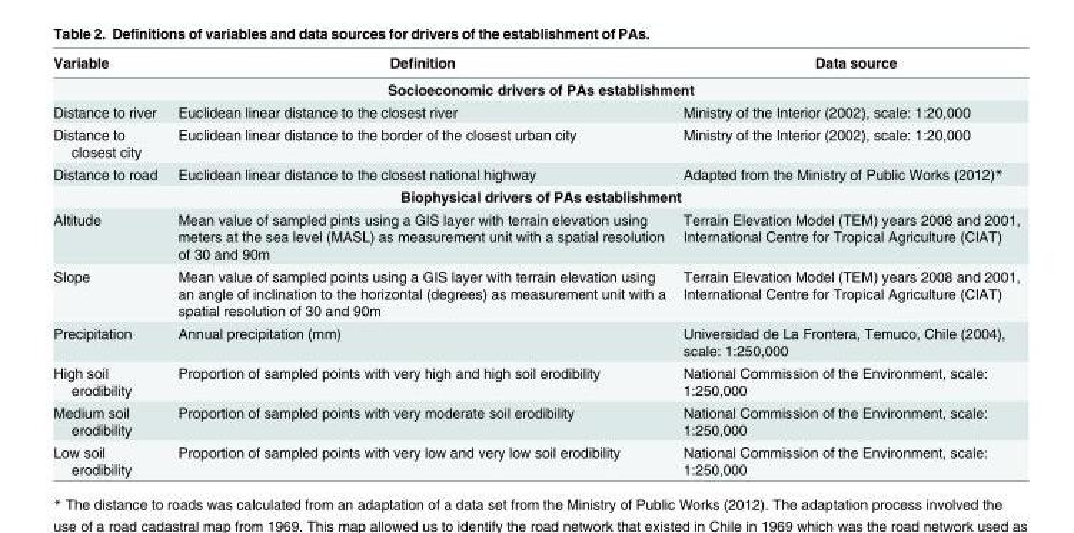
<table><thead><tr><td>Variable</td><td>Definition</td><td>Data source</td></tr></thead><tbody><tr><td colspan="3">Socioeconomic drivers of PAs establishment</td></tr><tr><td>Distance to river</td><td>Euclidean linear distance to the closest river</td><td>Ministry of the Interior (2002), scale: 1:20,000</td></tr><tr><td>Distance to closest city</td><td>Euclidean linear distance to the border of the closest urban city</td><td>Ministry of the Interior (2002), scale: 1:20,000</td></tr><tr><td>Distance to road</td><td>Euclidean linear distance to the closest national highway</td><td>Adapted from the Ministry of Public Works (2012)*</td></tr><tr><td colspan="3">Biophysical drivers of PAs establishment</td></tr><tr><td>Altitude</td><td>Mean value of sampled pints using a GIS layer with terrain elevation using meters at the sea level (MASL) as measurement unit with a spatial resolution of 30 and 90m</td><td>Terrain Elevation Model (TEM) years 2008 and 2001, International Centre for Tropical Agriculture (CIAT)</td></tr><tr><td>Slope</td><td>Mean value of sampled points using a GIS layer with terrain elevation using an angle of inclination to the horizontal (degrees) as measurement unit with a spatial resolution of 30 and 90m</td><td>Terrain Elevation Model (TEM) years 2008 and 2001, International Centre for Tropical Agriculture (CIAT)</td></tr><tr><td>Precipitation</td><td>Annual precipitation (mm)</td><td>Universidad de La Frontera, Temuco, Chile (2004), scale: 1:250,000</td></tr><tr><td>High soil erodibility</td><td>Proportion of sampled points with very high and high soil erodibility</td><td>National Commission of the Environment, scale: 1:250,000</td></tr><tr><td>Medium soil erodibility</td><td>Proportion of sampled points with very moderate soil erodibility</td><td>National Commission of the Environment, scale: 1:250,000</td></tr><tr><td>Low soil erodibility</td><td>Proportion of sampled points with very low and very low soil erodibility</td><td>National Commission of the Environment, scale: 1:250,000</td></tr></tbody></table>